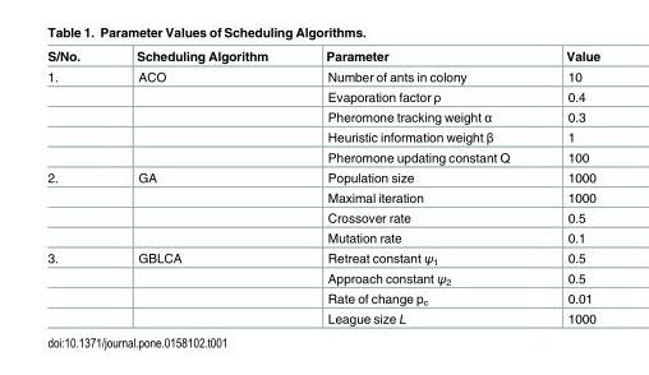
<table><thead><tr><td>S/No.</td><td>Scheduling Algorithm</td><td>Parameter</td><td>Value</td></tr></thead><tbody><tr><td rowspan="5">1.</td><td>ACO</td><td>Number of ants in colony</td><td>10</td></tr><tr><td></td><td>Evaporation factor ρ</td><td>0.4</td></tr><tr><td></td><td>Pheromone tracking weight α</td><td>0.3</td></tr><tr><td></td><td>Heuristic information weight β</td><td>1</td></tr><tr><td></td><td>Pheromone updating constant Q</td><td>100</td></tr><tr><td rowspan="4">2.</td><td>GA</td><td>Population size</td><td>1000</td></tr><tr><td></td><td>Maximal iteration</td><td>1000</td></tr><tr><td></td><td>Crossover rate</td><td>0.5</td></tr><tr><td></td><td>Mutation rate</td><td>0.1</td></tr><tr><td rowspan="4">3.</td><td>GBLCA</td><td>Retreat constant ψ<sub>1</sub></td><td>0.5</td></tr><tr><td></td><td>Approach constant ψ<sub>2</sub></td><td>0.5</td></tr><tr><td></td><td>Rate of change p<sub>c</sub></td><td>0.01</td></tr><tr><td></td><td>League size L</td><td>1000</td></tr></tbody></table>